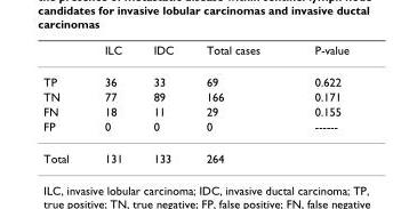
<table><thead><tr><td></td><td>ILC</td><td>IDC</td><td>Total cases</td><td>P-value</td></tr></thead><tbody><tr><td>TP</td><td>36</td><td>33</td><td>69</td><td>0.622</td></tr><tr><td>TN</td><td>77</td><td>89</td><td>166</td><td>0.171</td></tr><tr><td>FN</td><td>18</td><td>11</td><td>29</td><td>0.155</td></tr><tr><td>FP</td><td>0</td><td>0</td><td>0</td><td>------</td></tr><tr><td>Total</td><td>131</td><td>133</td><td>264</td><td></td></tr></tbody></table>